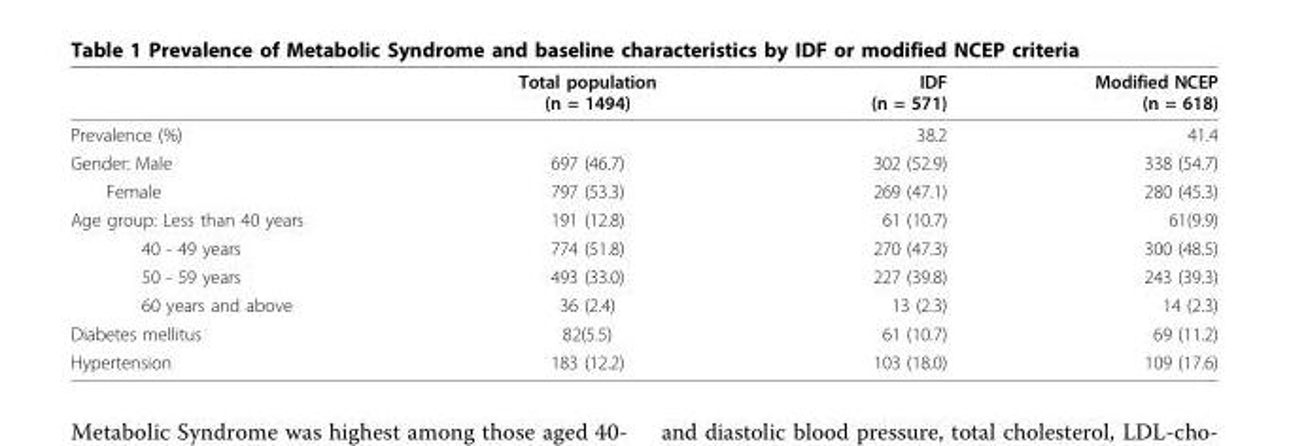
<table><thead><tr><td></td><td>Total population (n = 1494)</td><td>IDF (n = 571)</td><td>Modified NCEP (n = 618)</td></tr></thead><tbody><tr><td>Prevalence (%)</td><td></td><td>38.2</td><td>41.4</td></tr><tr><td>Gender: Male</td><td>697 (46.7)</td><td>302 (52.9)</td><td>338 (54.7)</td></tr><tr><td>Female</td><td>797 (53.3)</td><td>269 (47.1)</td><td>280 (45.3)</td></tr><tr><td>Age group: Less than 40 years</td><td>191 (12.8)</td><td>61 (10.7)</td><td>61(9.9)</td></tr><tr><td>40 - 49 years</td><td>774 (51.8)</td><td>270 (47.3)</td><td>300 (48.5)</td></tr><tr><td>50 - 59 years</td><td>493 (33.0)</td><td>227 (39.8)</td><td>243 (39.3)</td></tr><tr><td>60 years and above</td><td>36 (2.4)</td><td>13 (2.3)</td><td>14 (2.3)</td></tr><tr><td>Diabetes mellitus</td><td>82(5.5)</td><td>61 (10.7)</td><td>69 (11.2)</td></tr><tr><td>Hypertension</td><td>183 (12.2)</td><td>103 (18.0)</td><td>109 (17.6)</td></tr></tbody></table>